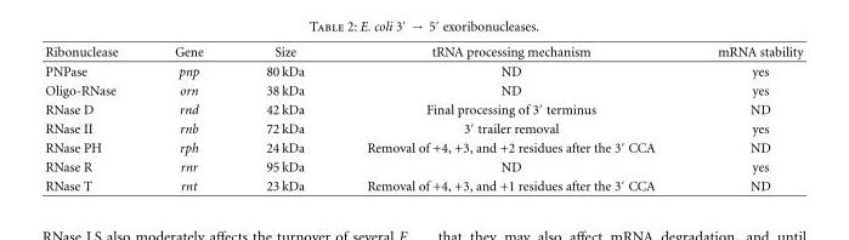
<table><thead><tr><td>Ribonuclease</td><td>Gene</td><td>Size</td><td>tRNA processing mechanism</td><td>mRNA stability</td></tr></thead><tbody><tr><td>PNPase</td><td>pnp</td><td>80 kDa</td><td>ND</td><td>yes</td></tr><tr><td>Oligo-RNase</td><td>orn</td><td>38 kDa</td><td>ND</td><td>yes</td></tr><tr><td>RNase D</td><td>rnd</td><td>42 kDa</td><td>Final processing of 3′ terminus</td><td>ND</td></tr><tr><td>RNase II</td><td>rnb</td><td>72 kDa</td><td>3′ trailer removal</td><td>yes</td></tr><tr><td>RNase PH</td><td>rph</td><td>24 kDa</td><td>Removal of +4, +3, and +2 residues after the 3′ CCA</td><td>ND</td></tr><tr><td>RNase R</td><td>rnr</td><td>95 kDa</td><td>ND</td><td>yes</td></tr><tr><td>RNase T</td><td>rnt</td><td>23 kDa</td><td>Removal of +4, +3, and +1 residues after the 3′ CCA</td><td>ND</td></tr></tbody></table>